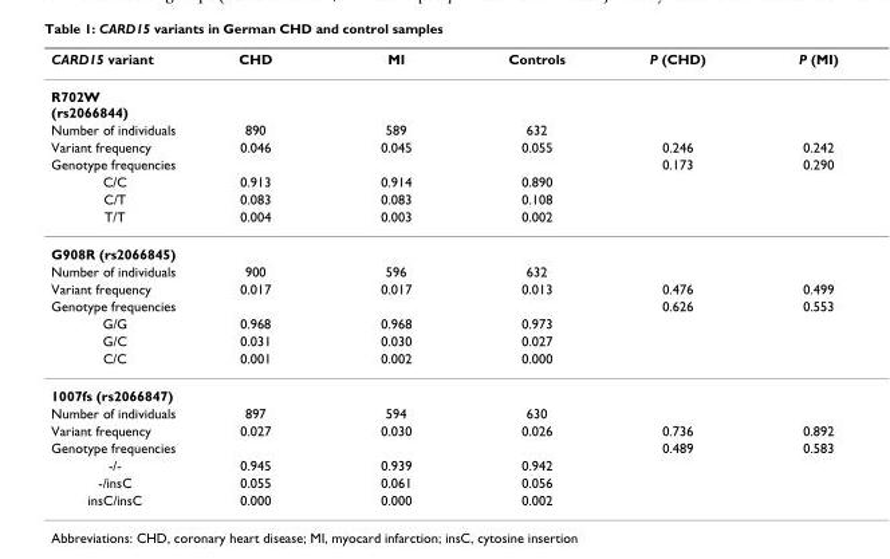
<table><thead><tr><td>CARD15 variant</td><td>CHD</td><td>MI</td><td>Controls</td><td>P (CHD)</td><td>P (MI)</td></tr></thead><tbody><tr><td colspan="6">R702W (rs2066844)</td></tr><tr><td>Number of individuals</td><td>890</td><td>589</td><td>632</td><td></td><td></td></tr><tr><td>Variant frequency</td><td>0.046</td><td>0.045</td><td>0.055</td><td>0.246</td><td>0.242</td></tr><tr><td>Genotype frequencies</td><td></td><td></td><td></td><td>0.173</td><td>0.290</td></tr><tr><td>C/C</td><td>0.913</td><td>0.914</td><td>0.890</td><td></td><td></td></tr><tr><td>C/T</td><td>0.083</td><td>0.083</td><td>0.108</td><td></td><td></td></tr><tr><td>T/T</td><td>0.004</td><td>0.003</td><td>0.002</td><td></td><td></td></tr><tr><td colspan="6">G908R (rs2066845)</td></tr><tr><td>Number of individuals</td><td>900</td><td>596</td><td>632</td><td></td><td></td></tr><tr><td>Variant frequency</td><td>0.017</td><td>0.017</td><td>0.013</td><td>0.476</td><td>0.499</td></tr><tr><td>Genotype frequencies</td><td></td><td></td><td></td><td>0.626</td><td>0.553</td></tr><tr><td>G/G</td><td>0.968</td><td>0.968</td><td>0.973</td><td></td><td></td></tr><tr><td>G/C</td><td>0.031</td><td>0.030</td><td>0.027</td><td></td><td></td></tr><tr><td>C/C</td><td>0.001</td><td>0.002</td><td>0.000</td><td></td><td></td></tr><tr><td colspan="6">1007fs (rs2066847)</td></tr><tr><td>Number of individuals</td><td>897</td><td>594</td><td>630</td><td></td><td></td></tr><tr><td>Variant frequency</td><td>0.027</td><td>0.030</td><td>0.026</td><td>0.736</td><td>0.892</td></tr><tr><td>Genotype frequencies</td><td></td><td></td><td></td><td>0.489</td><td>0.583</td></tr><tr><td>-/-</td><td>0.945</td><td>0.939</td><td>0.942</td><td></td><td></td></tr><tr><td>-/insC</td><td>0.055</td><td>0.061</td><td>0.056</td><td></td><td></td></tr><tr><td>insC/insC</td><td>0.000</td><td>0.000</td><td>0.002</td><td></td><td></td></tr></tbody></table>